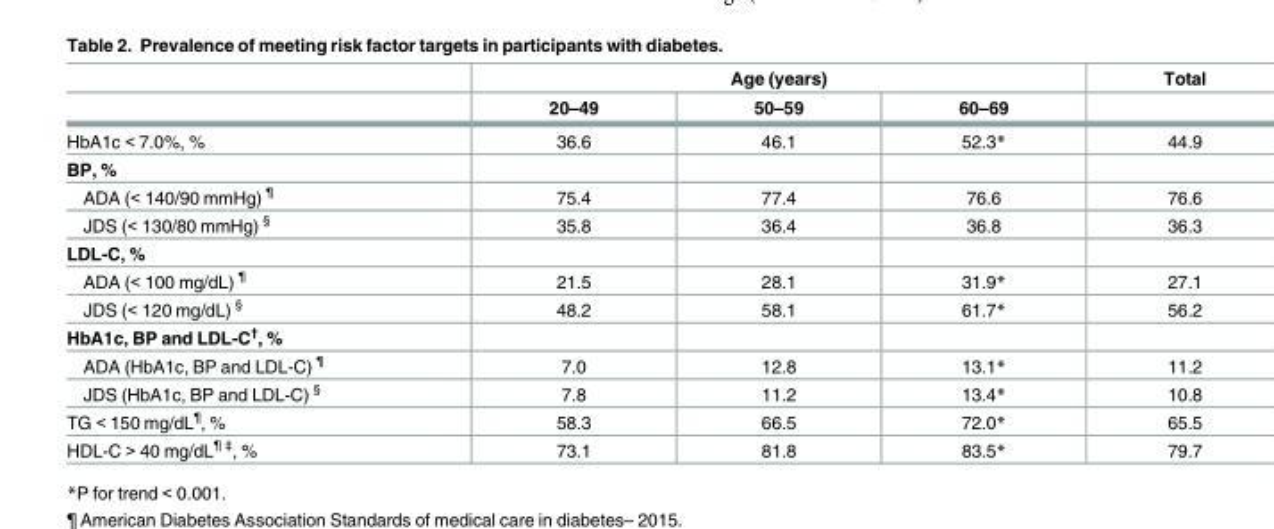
<table><thead><tr><td rowspan="2"></td><td colspan="3">Age (years)</td><td rowspan="2">Total</td></tr><tr><td>20–49</td><td>50–59</td><td>60–69</td></tr></thead><tbody><tr><td>HbA1c &lt; 7.0%, %</td><td>36.6</td><td>46.1</td><td>52.3*</td><td>44.9</td></tr><tr><td colspan="5">BP, %</td></tr><tr><td>ADA (&lt; 140/90 mmHg) <sup>¶</sup></td><td>75.4</td><td>77.4</td><td>76.6</td><td>76.6</td></tr><tr><td>JDS (&lt; 130/80 mmHg) <sup>§</sup></td><td>35.8</td><td>36.4</td><td>36.8</td><td>36.3</td></tr><tr><td colspan="5">LDL-C, %</td></tr><tr><td>ADA (&lt; 100 mg/dL) <sup>¶</sup></td><td>21.5</td><td>28.1</td><td>31.9*</td><td>27.1</td></tr><tr><td>JDS (&lt; 120 mg/dL) <sup>§</sup></td><td>48.2</td><td>58.1</td><td>61.7*</td><td>56.2</td></tr><tr><td colspan="5">HbA1c, BP and LDL-C<sup>†</sup>, %</td></tr><tr><td>ADA (HbA1c, BP and LDL-C) <sup>¶</sup></td><td>7.0</td><td>12.8</td><td>13.1*</td><td>11.2</td></tr><tr><td>JDS (HbA1c, BP and LDL-C) <sup>§</sup></td><td>7.8</td><td>11.2</td><td>13.4*</td><td>10.8</td></tr><tr><td>TG &lt; 150 mg/dL<sup>¶</sup>, %</td><td>58.3</td><td>66.5</td><td>72.0*</td><td>65.5</td></tr><tr><td>HDL-C &gt; 40 mg/dL<sup>¶ ‡</sup>, %</td><td>73.1</td><td>81.8</td><td>83.5*</td><td>79.7</td></tr></tbody></table>